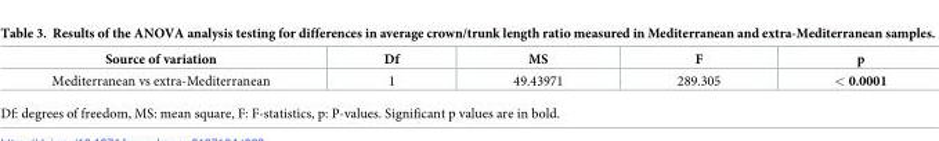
<table><thead><tr><td>Source of variation</td><td>Df</td><td>MS</td><td>F</td><td>p</td></tr></thead><tbody><tr><td>Mediterranean vs extra-Mediterranean</td><td>1</td><td>49.43971</td><td>289.305</td><td>&lt; 0.0001</td></tr></tbody></table>